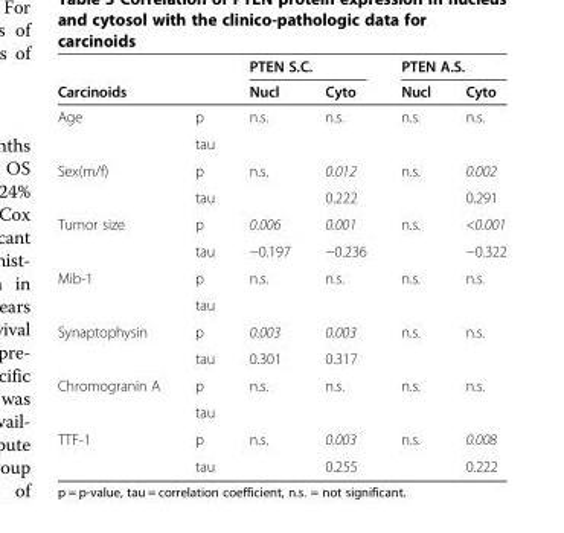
<table><thead><tr><td rowspan="2">Carcinoids</td><td rowspan="2"></td><td colspan="2">PTEN S.C.</td><td colspan="2">PTEN A.S.</td></tr><tr><td>Nucl</td><td>Cyto</td><td>Nucl</td><td>Cyto</td></tr></thead><tbody><tr><td rowspan="2">Age</td><td>p</td><td>n.s.</td><td>n.s.</td><td>n.s.</td><td>n.s.</td></tr><tr><td>tau</td><td></td><td></td><td></td><td></td></tr><tr><td rowspan="2">Sex(m/f)</td><td>p</td><td>n.s.</td><td>0.012</td><td>n.s.</td><td>0.002</td></tr><tr><td>tau</td><td></td><td>0.222</td><td></td><td>0.291</td></tr><tr><td rowspan="2">Tumor size</td><td>p</td><td>0.006</td><td>0.001</td><td>n.s.</td><td>&lt;0.001</td></tr><tr><td>tau</td><td>−0.197</td><td>−0.236</td><td></td><td>−0.322</td></tr><tr><td rowspan="2">Mib-1</td><td>p</td><td>n.s.</td><td>n.s.</td><td>n.s.</td><td>n.s.</td></tr><tr><td>tau</td><td></td><td></td><td></td><td></td></tr><tr><td rowspan="2">Synaptophysin</td><td>p</td><td>0.003</td><td>0.003</td><td>n.s.</td><td>n.s.</td></tr><tr><td>tau</td><td>0.301</td><td>0.317</td><td></td><td></td></tr><tr><td rowspan="2">Chromogranin A</td><td>p</td><td>n.s.</td><td>n.s.</td><td>n.s.</td><td>n.s.</td></tr><tr><td>tau</td><td></td><td></td><td></td><td></td></tr><tr><td rowspan="2">TTF-1</td><td>p</td><td>n.s.</td><td>0.003</td><td>n.s.</td><td>0.008</td></tr><tr><td>tau</td><td></td><td>0.255</td><td></td><td>0.222</td></tr></tbody></table>